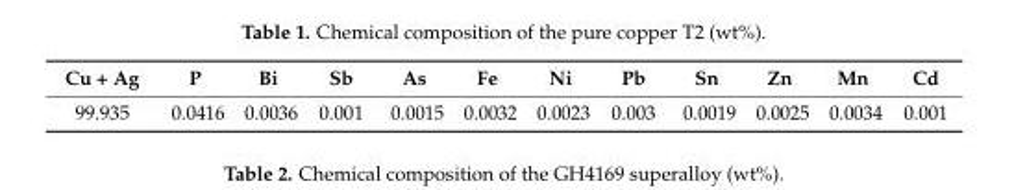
<table><thead><tr><td>Cu + Ag</td><td>P</td><td>Bi</td><td>Sb</td><td>As</td><td>Fe</td><td>Ni</td><td>Pb</td><td>Sn</td><td>Zn</td><td>Mn</td><td>Cd</td></tr></thead><tbody><tr><td>99.935</td><td>0.0416</td><td>0.0036</td><td>0.001</td><td>0.0015</td><td>0.0032</td><td>0.0023</td><td>0.003</td><td>0.0019</td><td>0.0025</td><td>0.0034</td><td>0.001</td></tr></tbody></table>